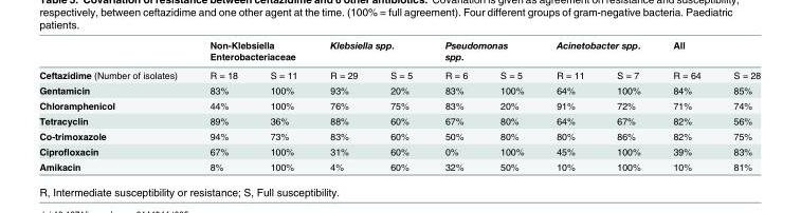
<table><thead><tr><td rowspan="2">Ceftazidime (Number of isolates)</td><td colspan="2">Non-Klebsiella Enterobacteriaceae</td><td colspan="2">Klebsiella spp.</td><td colspan="2">Pseudomonas spp.</td><td colspan="2">Acinetobacter spp.</td><td colspan="2">All</td></tr><tr><td>R = 18</td><td>S = 11</td><td>R = 29</td><td>S = 5</td><td>R = 6</td><td>S = 5</td><td>R = 11</td><td>S = 7</td><td>R = 64</td><td>S = 28</td></tr></thead><tbody><tr><td>Gentamicin</td><td>83%</td><td>100%</td><td>93%</td><td>20%</td><td>83%</td><td>100%</td><td>64%</td><td>100%</td><td>84%</td><td>85%</td></tr><tr><td>Chloramphenicol</td><td>44%</td><td>100%</td><td>76%</td><td>75%</td><td>83%</td><td>20%</td><td>91%</td><td>72%</td><td>71%</td><td>74%</td></tr><tr><td>Tetracyclin</td><td>89%</td><td>36%</td><td>88%</td><td>60%</td><td>67%</td><td>80%</td><td>64%</td><td>67%</td><td>82%</td><td>56%</td></tr><tr><td>Co-trimoxazole</td><td>94%</td><td>73%</td><td>83%</td><td>60%</td><td>50%</td><td>80%</td><td>80%</td><td>86%</td><td>82%</td><td>75%</td></tr><tr><td>Ciprofloxacin</td><td>67%</td><td>100%</td><td>31%</td><td>60%</td><td>0%</td><td>100%</td><td>45%</td><td>100%</td><td>39%</td><td>83%</td></tr><tr><td>Amikacin</td><td>8%</td><td>100%</td><td>4%</td><td>60%</td><td>32%</td><td>50%</td><td>10%</td><td>100%</td><td>10%</td><td>81%</td></tr></tbody></table>